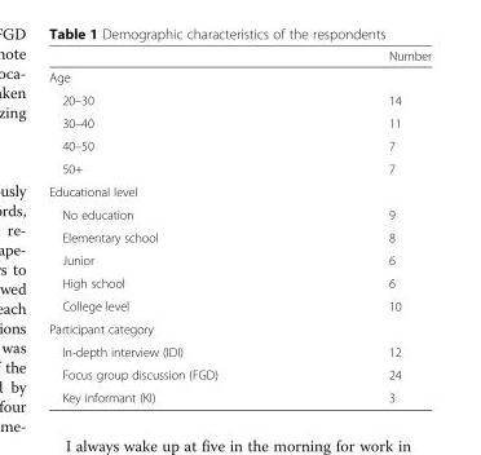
<table><thead><tr><td></td><td>Number</td></tr></thead><tbody><tr><td colspan="2">Age</td></tr><tr><td>20–30</td><td>14</td></tr><tr><td>30–40</td><td>11</td></tr><tr><td>40–50</td><td>7</td></tr><tr><td>50+</td><td>7</td></tr><tr><td colspan="2">Educational level</td></tr><tr><td>No education</td><td>9</td></tr><tr><td>Elementary school</td><td>8</td></tr><tr><td>Junior</td><td>6</td></tr><tr><td>High school</td><td>6</td></tr><tr><td>College level</td><td>10</td></tr><tr><td colspan="2">Participant category</td></tr><tr><td>In-depth interview (IDI)</td><td>12</td></tr><tr><td>Focus group discussion (FGD)</td><td>24</td></tr><tr><td>Key informant (KI)</td><td>3</td></tr></tbody></table>